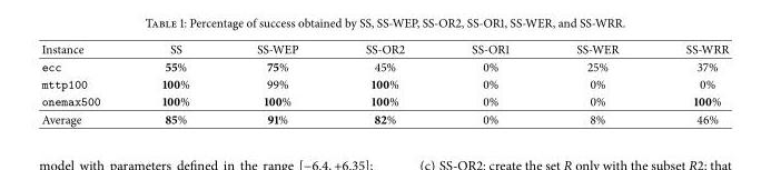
<table><thead><tr><td>Instance</td><td>SS</td><td>SS-WEP</td><td>SS-OR2</td><td>SS-OR1</td><td>SS-WER</td><td>SS-WRR</td></tr></thead><tbody><tr><td>ecc</td><td>55%</td><td>75%</td><td>45%</td><td>0%</td><td>25%</td><td>37%</td></tr><tr><td>mttp100</td><td>100%</td><td>99%</td><td>100%</td><td>0%</td><td>0%</td><td>0%</td></tr><tr><td>onemax500</td><td>100%</td><td>100%</td><td>100%</td><td>0%</td><td>0%</td><td>100%</td></tr><tr><td>Average</td><td>85%</td><td>91%</td><td>82%</td><td>0%</td><td>8%</td><td>46%</td></tr></tbody></table>